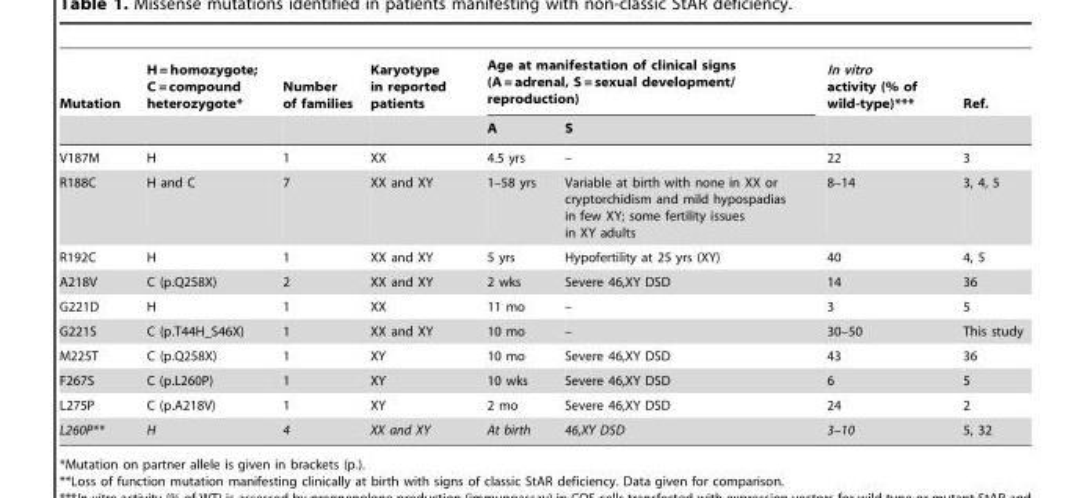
<table><thead><tr><td rowspan="2">Mutation</td><td rowspan="2">H = homozygote; C = compound heterozygote*</td><td rowspan="2">Number of families</td><td rowspan="2">Karyotype in reported patients</td><td colspan="2">Age at manifestation of clinical signs (A = adrenal, S = sexual development/ reproduction)</td><td rowspan="2">In vitro activity (% of wild-type)***</td><td rowspan="2">Ref.</td></tr><tr><td>A</td><td>S</td></tr></thead><tbody><tr><td>V187M</td><td>H</td><td>1</td><td>XX</td><td>4.5 yrs</td><td>–</td><td>22</td><td>3</td></tr><tr><td>R188C</td><td>H and C</td><td>7</td><td>XX and XY</td><td>1–58 yrs</td><td>Variable at birth with none in XX or cryptorchidism and mild hypospadias in few XY; some fertility issues in XY adults</td><td>8–14</td><td>3, 4, 5</td></tr><tr><td>R192C</td><td>H</td><td>1</td><td>XX and XY</td><td>5 yrs</td><td>Hypofertility at 25 yrs (XY)</td><td>40</td><td>4, 5</td></tr><tr><td>A218V</td><td>C (p.Q258X)</td><td>2</td><td>XX and XY</td><td>2 wks</td><td>Severe 46,XY DSD</td><td>14</td><td>36</td></tr><tr><td>G221D</td><td>H</td><td>1</td><td>XX</td><td>11 mo</td><td>–</td><td>3</td><td>5</td></tr><tr><td>G221S</td><td>C (p.T44H_S46X)</td><td>1</td><td>XX and XY</td><td>10 mo</td><td>–</td><td>30–50</td><td>This study</td></tr><tr><td>M225T</td><td>C (p.Q258X)</td><td>1</td><td>XY</td><td>10 mo</td><td>Severe 46,XY DSD</td><td>43</td><td>36</td></tr><tr><td>F267S</td><td>C (p.L260P)</td><td>1</td><td>XY</td><td>10 wks</td><td>Severe 46,XY DSD</td><td>6</td><td>5</td></tr><tr><td>L275P</td><td>C (p.A218V)</td><td>1</td><td>XY</td><td>2 mo</td><td>Severe 46,XY DSD</td><td>24</td><td>2</td></tr><tr><td>L260P**</td><td>H</td><td>4</td><td>XX and XY</td><td>At birth</td><td>46,XY DSD</td><td>3–10</td><td>5, 32</td></tr></tbody></table>